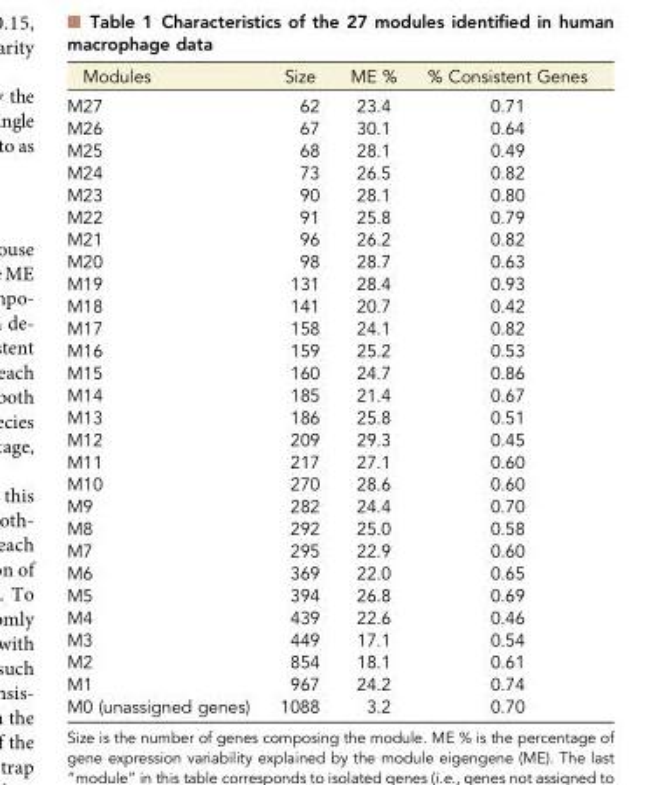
<table><thead><tr><td>Modules</td><td>Size</td><td>ME %</td><td>% Consistent Genes</td></tr></thead><tbody><tr><td>M27</td><td>62</td><td>23.4</td><td>0.71</td></tr><tr><td>M26</td><td>67</td><td>30.1</td><td>0.64</td></tr><tr><td>M25</td><td>68</td><td>28.1</td><td>0.49</td></tr><tr><td>M24</td><td>73</td><td>26.5</td><td>0.82</td></tr><tr><td>M23</td><td>90</td><td>28.1</td><td>0.80</td></tr><tr><td>M22</td><td>91</td><td>25.8</td><td>0.79</td></tr><tr><td>M21</td><td>96</td><td>26.2</td><td>0.82</td></tr><tr><td>M20</td><td>98</td><td>28.7</td><td>0.63</td></tr><tr><td>M19</td><td>131</td><td>28.4</td><td>0.93</td></tr><tr><td>M18</td><td>141</td><td>20.7</td><td>0.42</td></tr><tr><td>M17</td><td>158</td><td>24.1</td><td>0.82</td></tr><tr><td>M16</td><td>159</td><td>25.2</td><td>0.53</td></tr><tr><td>M15</td><td>160</td><td>24.7</td><td>0.86</td></tr><tr><td>M14</td><td>185</td><td>21.4</td><td>0.67</td></tr><tr><td>M13</td><td>186</td><td>25.8</td><td>0.51</td></tr><tr><td>M12</td><td>209</td><td>29.3</td><td>0.45</td></tr><tr><td>M11</td><td>217</td><td>27.1</td><td>0.60</td></tr><tr><td>M10</td><td>270</td><td>28.6</td><td>0.60</td></tr><tr><td>M9</td><td>282</td><td>24.4</td><td>0.70</td></tr><tr><td>M8</td><td>292</td><td>25.0</td><td>0.58</td></tr><tr><td>M7</td><td>295</td><td>22.9</td><td>0.60</td></tr><tr><td>M6</td><td>369</td><td>22.0</td><td>0.65</td></tr><tr><td>M5</td><td>394</td><td>26.8</td><td>0.69</td></tr><tr><td>M4</td><td>439</td><td>22.6</td><td>0.46</td></tr><tr><td>M3</td><td>449</td><td>17.1</td><td>0.54</td></tr><tr><td>M2</td><td>854</td><td>18.1</td><td>0.61</td></tr><tr><td>M1</td><td>967</td><td>24.2</td><td>0.74</td></tr><tr><td>M0 (unassigned genes)</td><td>1088</td><td>3.2</td><td>0.70</td></tr></tbody></table>